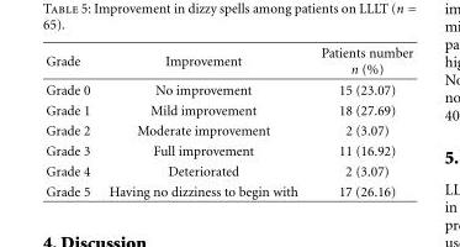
<table><thead><tr><td>Grade</td><td>Improvement</td><td>Patients number n (%)</td></tr></thead><tbody><tr><td>Grade 0</td><td>No improvement</td><td>15 (23.07)</td></tr><tr><td>Grade 1</td><td>Mild improvement</td><td>18 (27.69)</td></tr><tr><td>Grade 2</td><td>Moderate improvement</td><td>2 (3.07)</td></tr><tr><td>Grade 3</td><td>Full improvement</td><td>11 (16.92)</td></tr><tr><td>Grade 4</td><td>Deteriorated</td><td>2 (3.07)</td></tr><tr><td>Grade 5</td><td>Having no dizziness to begin with</td><td>17 (26.16)</td></tr></tbody></table>